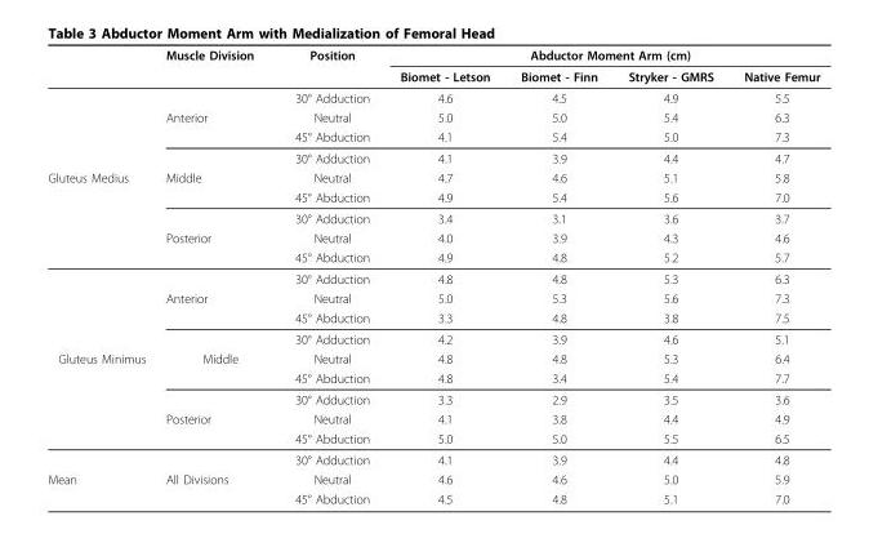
<table><thead><tr><td rowspan="2"></td><td rowspan="2">Muscle Division</td><td rowspan="2">Position</td><td colspan="4">Abductor Moment Arm (cm)</td></tr><tr><td>Biomet - Letson</td><td>Biomet - Finn</td><td>Stryker - GMRS</td><td>Native Femur</td></tr></thead><tbody><tr><td></td><td></td><td>30° Adduction</td><td>4.6</td><td>4.5</td><td>4.9</td><td>5.5</td></tr><tr><td></td><td>Anterior</td><td>Neutral</td><td>5.0</td><td>5.0</td><td>5.4</td><td>6.3</td></tr><tr><td></td><td></td><td>45° Abduction</td><td>4.1</td><td>5.4</td><td>5.0</td><td>7.3</td></tr><tr><td></td><td></td><td>30° Adduction</td><td>4.1</td><td>3.9</td><td>4.4</td><td>4.7</td></tr><tr><td rowspan="9">Gluteus Medius</td><td>Middle</td><td>Neutral</td><td>4.7</td><td>4.6</td><td>5.1</td><td>5.8</td></tr><tr><td></td><td>45° Abduction</td><td>4.9</td><td>5.4</td><td>5.6</td><td>7.0</td></tr><tr><td></td><td>30° Adduction</td><td>3.4</td><td>3.1</td><td>3.6</td><td>3.7</td></tr><tr><td>Posterior</td><td>Neutral</td><td>4.0</td><td>3.9</td><td>4.3</td><td>4.6</td></tr><tr><td></td><td>45° Abduction</td><td>4.9</td><td>4.8</td><td>5.2</td><td>5.7</td></tr><tr><td></td><td>30° Adduction</td><td>4.8</td><td>4.8</td><td>5.3</td><td>6.3</td></tr><tr><td>Anterior</td><td>Neutral</td><td>5.0</td><td>5.3</td><td>5.6</td><td>7.3</td></tr><tr><td></td><td>45° Abduction</td><td>3.3</td><td>4.8</td><td>3.8</td><td>7.5</td></tr><tr><td></td><td>30° Adduction</td><td>4.2</td><td>3.9</td><td>4.6</td><td>5.1</td></tr><tr><td rowspan="6">Gluteus Minimus</td><td>Middle</td><td>Neutral</td><td>4.8</td><td>4.8</td><td>5.3</td><td>6.4</td></tr><tr><td></td><td>45° Abduction</td><td>4.8</td><td>3.4</td><td>5.4</td><td>7.7</td></tr><tr><td></td><td>30° Adduction</td><td>3.3</td><td>2.9</td><td>3.5</td><td>3.6</td></tr><tr><td>Posterior</td><td>Neutral</td><td>4.1</td><td>3.8</td><td>4.4</td><td>4.9</td></tr><tr><td></td><td>45° Abduction</td><td>5.0</td><td>5.0</td><td>5.5</td><td>6.5</td></tr><tr><td></td><td>30° Adduction</td><td>4.1</td><td>3.9</td><td>4.4</td><td>4.8</td></tr><tr><td rowspan="2">Mean</td><td>All Divisions</td><td>Neutral</td><td>4.6</td><td>4.6</td><td>5.0</td><td>5.9</td></tr><tr><td></td><td>45° Abduction</td><td>4.5</td><td>4.8</td><td>5.1</td><td>7.0</td></tr></tbody></table>